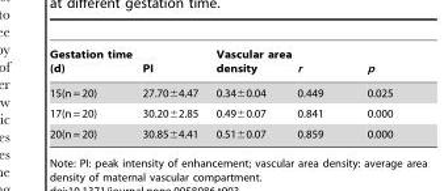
<table><thead><tr><td>Gestation time (d)</td><td>PI</td><td>Vascular area density</td><td>r</td><td>p</td></tr></thead><tbody><tr><td>15(n = 20)</td><td>27.70±4.47</td><td>0.34±0.04</td><td>0.449</td><td>0.025</td></tr><tr><td>17(n = 20)</td><td>30.20±2.85</td><td>0.49±0.07</td><td>0.841</td><td>0.000</td></tr><tr><td>20(n = 20)</td><td>30.85±4.41</td><td>0.51±0.07</td><td>0.859</td><td>0.000</td></tr></tbody></table>